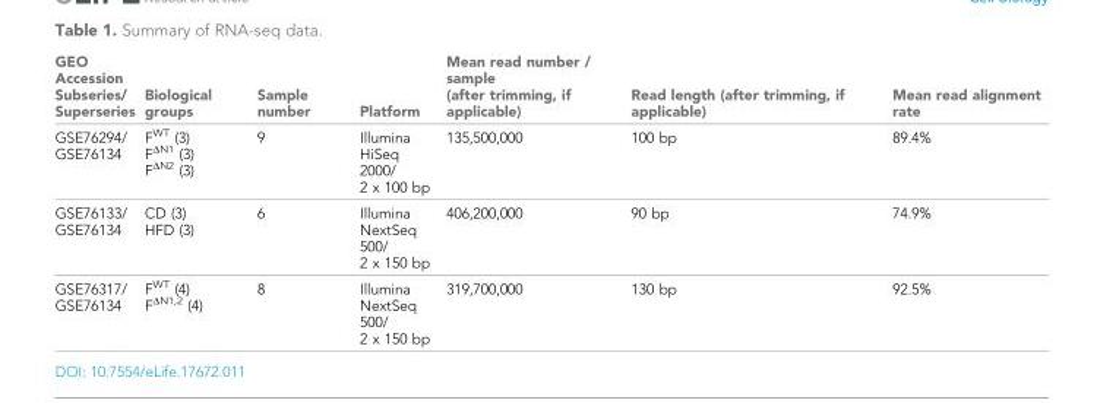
<table><thead><tr><td>GEO Accession Subseries/ Superseries</td><td>Biological groups</td><td>Sample number</td><td>Platform</td><td>Mean read number / sample (after trimming, if applicable)</td><td>Read length (after trimming, if applicable)</td><td>Mean read alignment rate</td></tr></thead><tbody><tr><td>GSE76294/ GSE76134</td><td>F<sup>WT</sup> (3) F<sup>∆N1</sup> (3) F<sup>∆N2</sup> (3)</td><td>9</td><td>Illumina HiSeq 2000/ 2 x 100 bp</td><td>135,500,000</td><td>100 bp</td><td>89.4%</td></tr><tr><td>GSE76133/ GSE76134</td><td>CD (3) HFD (3)</td><td>6</td><td>Illumina NextSeq 500/ 2 x 150 bp</td><td>406,200,000</td><td>90 bp</td><td>74.9%</td></tr><tr><td>GSE76317/ GSE76134</td><td>F<sup>WT</sup> (4) F<sup>∆N1,2</sup> (4)</td><td>8</td><td>Illumina NextSeq 500/ 2 x 150 bp</td><td>319,700,000</td><td>130 bp</td><td>92.5%</td></tr></tbody></table>